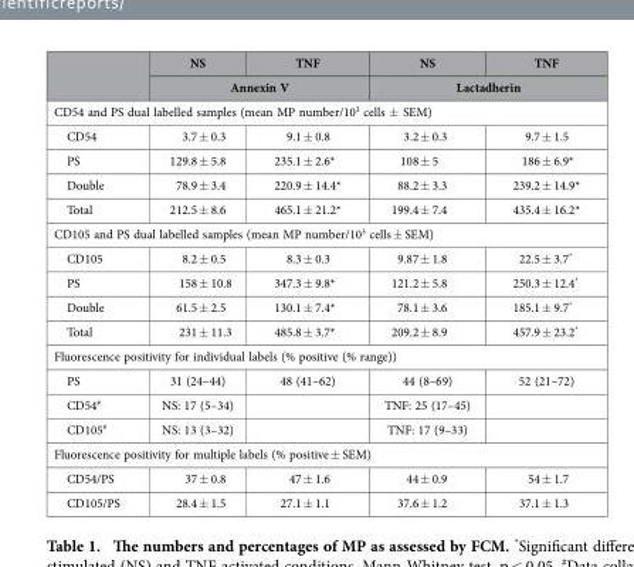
<table><thead><tr><td rowspan="2"></td><td>NS</td><td>TNF</td><td>NS</td><td>TNF</td></tr><tr><td colspan="2">Annexin V</td><td colspan="2">Lactadherin</td></tr></thead><tbody><tr><td colspan="5">CD54 and PS dual labelled samples (mean MP number/10<sup>3</sup> cells ± SEM)</td></tr><tr><td>CD54</td><td>3.7 ± 0.3</td><td>9.1 ± 0.8</td><td>3.2 ± 0.3</td><td>9.7 ± 1.5</td></tr><tr><td>PS</td><td>129.8 ± 5.8</td><td>235.1 ± 2.6*</td><td>108 ± 5</td><td>186 ± 6.9*</td></tr><tr><td>Double</td><td>78.9 ± 3.4</td><td>220.9 ± 14.4*</td><td>88.2 ± 3.3</td><td>239.2 ± 14.9*</td></tr><tr><td>Total</td><td>212.5 ± 8.6</td><td>465.1 ± 21.2*</td><td>199.4 ± 7.4</td><td>435.4 ± 16.2*</td></tr><tr><td colspan="5">CD105 and PS dual labelled samples (mean MP number/10<sup>3</sup> cells ± SEM)</td></tr><tr><td>CD105</td><td>8.2 ± 0.5</td><td>8.3 ± 0.3</td><td>9.87 ± 1.8</td><td>22.5 ± 3.7*</td></tr><tr><td>PS</td><td>158 ± 10.8</td><td>347.3 ± 9.8*</td><td>121.2 ± 5.8</td><td>250.3 ± 12.4*</td></tr><tr><td>Double</td><td>61.5 ± 2.5</td><td>130.1 ± 7.4*</td><td>78.1 ± 3.6</td><td>185.1 ± 9.7*</td></tr><tr><td>Total</td><td>231 ± 11.3</td><td>485.8 ± 3.7*</td><td>209.2 ± 8.9</td><td>457.9 ± 23.2*</td></tr><tr><td colspan="5">Fluorescence positivity for individual labels (% positive (% range))</td></tr><tr><td>PS</td><td>31 (24–44)</td><td>48 (41–62)</td><td>44 (8–69)</td><td>52 (21–72)</td></tr><tr><td>CD54#</td><td>NS: 17 (5–34)</td><td></td><td>TNF: 25 (17–45)</td><td></td></tr><tr><td>CD105#</td><td>NS: 13 (3–32)</td><td></td><td>TNF: 17 (9–33)</td><td></td></tr><tr><td colspan="5">Fluorescence positivity for multiple labels (% positive ± SEM)</td></tr><tr><td>CD54/PS</td><td>37 ± 0.8</td><td>47 ± 1.6</td><td>44 ± 0.9</td><td>54 ± 1.7</td></tr><tr><td>CD105/PS</td><td>28.4 ± 1.5</td><td>27.1 ± 1.1</td><td>37.6 ± 1.2</td><td>37.1 ± 1.3</td></tr></tbody></table>